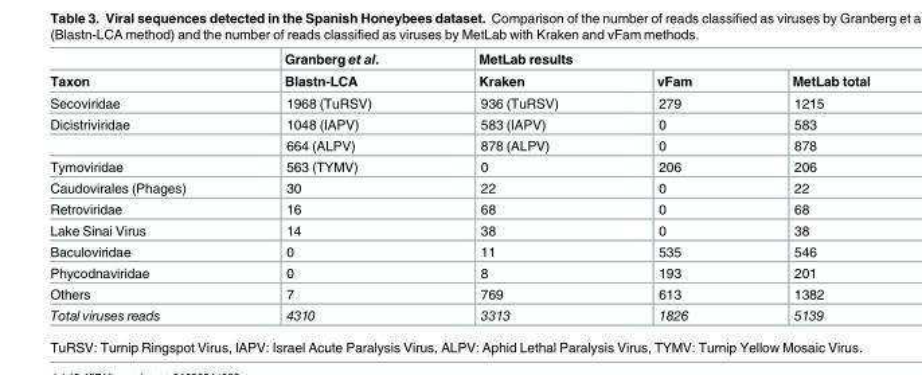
<table><thead><tr><td rowspan="2">Taxon</td><td rowspan="2">Granberg et al. Blastn-LCA</td><td colspan="3">MetLab results</td></tr><tr><td>Kraken</td><td>vFam</td><td>MetLab total</td></tr></thead><tbody><tr><td>Secoviridae</td><td>1968 (TuRSV)</td><td>936 (TuRSV)</td><td>279</td><td>1215</td></tr><tr><td rowspan="2">Dicistriviridae</td><td>1048 (IAPV)</td><td>583 (IAPV)</td><td>0</td><td>583</td></tr><tr><td>664 (ALPV)</td><td>878 (ALPV)</td><td>0</td><td>878</td></tr><tr><td>Tymoviridae</td><td>563 (TYMV)</td><td>0</td><td>206</td><td>206</td></tr><tr><td>Caudovirales (Phages)</td><td>30</td><td>22</td><td>0</td><td>22</td></tr><tr><td>Retroviridae</td><td>16</td><td>68</td><td>0</td><td>68</td></tr><tr><td>Lake Sinai Virus</td><td>14</td><td>38</td><td>0</td><td>38</td></tr><tr><td>Baculoviridae</td><td>0</td><td>11</td><td>535</td><td>546</td></tr><tr><td>Phycodnaviridae</td><td>0</td><td>8</td><td>193</td><td>201</td></tr><tr><td>Others</td><td>7</td><td>769</td><td>613</td><td>1382</td></tr><tr><td>Total viruses reads</td><td>4310</td><td>3313</td><td>1826</td><td>5139</td></tr></tbody></table>